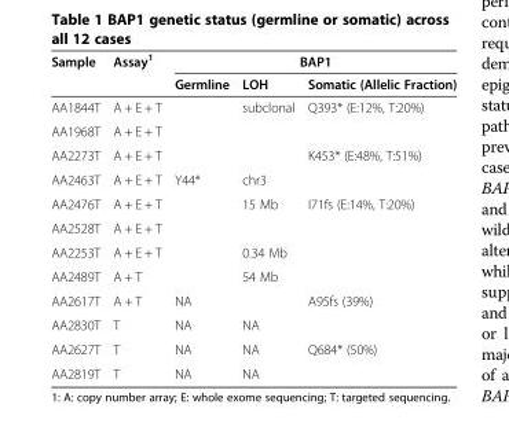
<table><thead><tr><td rowspan="2">Sample</td><td rowspan="2">Assay<sup>1</sup></td><td colspan="3">BAP1</td></tr><tr><td>Germline</td><td>LOH</td><td>Somatic (Allelic Fraction)</td></tr></thead><tbody><tr><td>AA1844T</td><td>A + E + T</td><td></td><td>subclonal</td><td>Q393* (E:12%, T:20%)</td></tr><tr><td>AA1968T</td><td>A + E + T</td><td></td><td></td><td></td></tr><tr><td>AA2273T</td><td>A + E + T</td><td></td><td></td><td>K453* (E:48%, T:51%)</td></tr><tr><td>AA2463T</td><td>A + E + T</td><td>Y44*</td><td>chr3</td><td></td></tr><tr><td>AA2476T</td><td>A + E + T</td><td></td><td>15 Mb</td><td>I71fs (E:14%, T:20%)</td></tr><tr><td>AA2528T</td><td>A + E + T</td><td></td><td></td><td></td></tr><tr><td>AA2253T</td><td>A + E + T</td><td></td><td>0.34 Mb</td><td></td></tr><tr><td>AA2489T</td><td>A + T</td><td></td><td>54 Mb</td><td></td></tr><tr><td>AA2617T</td><td>A + T</td><td>NA</td><td></td><td>A95fs (39%)</td></tr><tr><td>AA2830T</td><td>T</td><td>NA</td><td>NA</td><td></td></tr><tr><td>AA2627T</td><td>T</td><td>NA</td><td>NA</td><td>Q684* (50%)</td></tr><tr><td>AA2819T</td><td>T</td><td>NA</td><td>NA</td><td></td></tr></tbody></table>